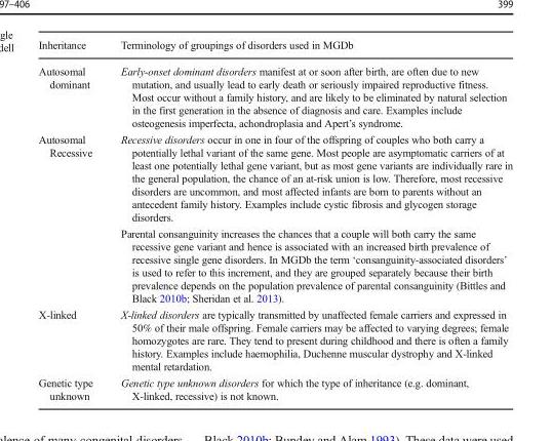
<table><thead><tr><td>Inheritance</td><td>Terminology of groupings of disorders used in MGDb</td></tr></thead><tbody><tr><td>Autosomal dominant</td><td>Early-onset dominant disorders manifest at or soon after birth, are often due to new mutation, and usually lead to early death or seriously impaired reproductive fitness. Most occur without a family history, and are likely to be eliminated by natural selection in the first generation in the absence of diagnosis and care. Examples include osteogenesis imperfecta, achondroplasia and Apert’s syndrome.</td></tr><tr><td>Autosomal Recessive</td><td>Recessive disorders occur in one in four of the offspring of couples who both carry a potentially lethal variant of the same gene. Most people are asymptomatic carriers of at least one potentially lethal gene variant, but as most gene variants are individually rare in the general population, the chance of an at-risk union is low. Therefore, most recessive disorders are uncommon, and most affected infants are born to parents without an antecedent family history. Examples include cystic fibrosis and glycogen storage disorders. Parental consanguinity increases the chances that a couple will both carry the same recessive gene variant and hence is associated with an increased birth prevalence of recessive single gene disorders. In MGDb the term ‘consanguinity-associated disorders’ is used to refer to this increment, and they are grouped separately because their birth prevalence depends on the population prevalence of parental consanguinity (Bittles and Black 2010b; Sheridan et al. 2013).</td></tr><tr><td>X-linked</td><td>X-linked disorders are typically transmitted by unaffected female carriers and expressed in 50% of their male offspring. Female carriers may be affected to varying degrees; female homozygotes are rare. They tend to present during childhood and there is often a family history. Examples include haemophilia, Duchenne muscular dystrophy and X-linked mental retardation.</td></tr><tr><td>Genetic type unknown</td><td>Genetic type unknown disorders for which the type of inheritance (e.g. dominant, X-linked, recessive) is not known.</td></tr></tbody></table>